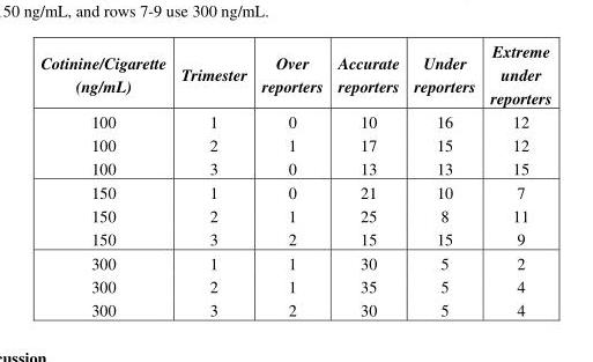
<table><thead><tr><td>Cotinine/Cigarette (ng/mL)</td><td>Trimester</td><td>Over reporters</td><td>Accurate reporters</td><td>Under reporters</td><td>Extreme under reporters</td></tr></thead><tbody><tr><td>100</td><td>1</td><td>0</td><td>10</td><td>16</td><td>12</td></tr><tr><td>100</td><td>2</td><td>1</td><td>17</td><td>15</td><td>12</td></tr><tr><td>100</td><td>3</td><td>0</td><td>13</td><td>13</td><td>15</td></tr><tr><td>150</td><td>1</td><td>0</td><td>21</td><td>10</td><td>7</td></tr><tr><td>150</td><td>2</td><td>1</td><td>25</td><td>8</td><td>11</td></tr><tr><td>150</td><td>3</td><td>2</td><td>15</td><td>15</td><td>9</td></tr><tr><td>300</td><td>1</td><td>1</td><td>30</td><td>5</td><td>2</td></tr><tr><td>300</td><td>2</td><td>1</td><td>35</td><td>5</td><td>4</td></tr><tr><td>300</td><td>3</td><td>2</td><td>30</td><td>5</td><td>4</td></tr></tbody></table>